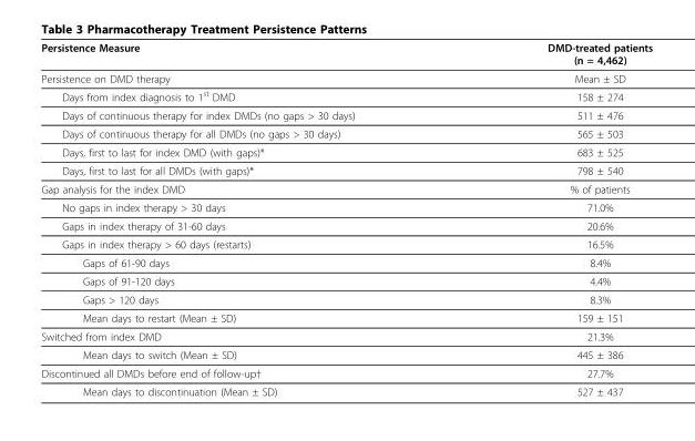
<table><thead><tr><td>Persistence Measure</td><td>DMD-treated patients (n = 4,462)</td></tr></thead><tbody><tr><td>Persistence on DMD therapy</td><td>Mean ± SD</td></tr><tr><td>Days from index diagnosis to 1<sup>st</sup> DMD</td><td>158 ± 274</td></tr><tr><td>Days of continuous therapy for index DMDs (no gaps &gt; 30 days)</td><td>511 ± 476</td></tr><tr><td>Days of continuous therapy for all DMDs (no gaps &gt; 30 days)</td><td>565 ± 503</td></tr><tr><td>Days, first to last for index DMD (with gaps)*</td><td>683 ± 525</td></tr><tr><td>Days, first to last for all DMDs (with gaps)*</td><td>798 ± 540</td></tr><tr><td>Gap analysis for the index DMD</td><td>% of patients</td></tr><tr><td>No gaps in index therapy &gt; 30 days</td><td>71.0%</td></tr><tr><td>Gaps in index therapy of 31-60 days</td><td>20.6%</td></tr><tr><td>Gaps in index therapy &gt; 60 days (restarts)</td><td>16.5%</td></tr><tr><td>Gaps of 61-90 days</td><td>8.4%</td></tr><tr><td>Gaps of 91-120 days</td><td>4.4%</td></tr><tr><td>Gaps &gt; 120 days</td><td>8.3%</td></tr><tr><td>Mean days to restart (Mean ± SD)</td><td>159 ± 151</td></tr><tr><td>Switched from index DMD</td><td>21.3%</td></tr><tr><td>Mean days to switch (Mean ± SD)</td><td>445 ± 386</td></tr><tr><td>Discontinued all DMDs before end of follow-up†</td><td>27.7%</td></tr><tr><td>Mean days to discontinuation (Mean ± SD)</td><td>527 ± 437</td></tr></tbody></table>